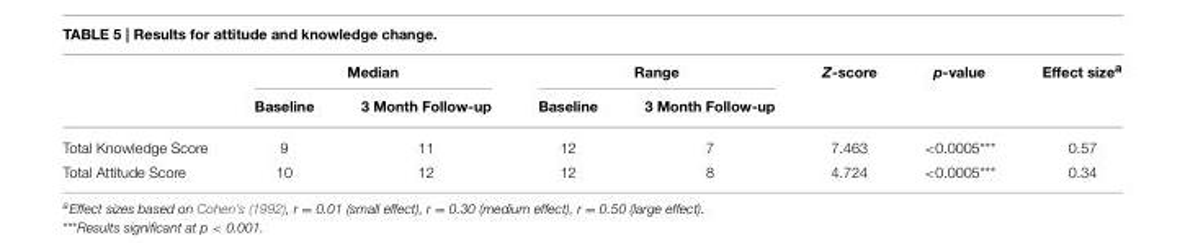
<table><thead><tr><td rowspan="2"></td><td colspan="2">Median</td><td colspan="2">Range</td><td rowspan="2">Z-score</td><td rowspan="2">p-value</td><td rowspan="2">Effect size<sup>a</sup></td></tr><tr><td>Baseline</td><td>3 Month Follow-up</td><td>Baseline</td><td>3 Month Follow-up</td></tr></thead><tbody><tr><td>Total Knowledge Score</td><td>9</td><td>11</td><td>12</td><td>7</td><td>7.463</td><td>&lt;0.0005***</td><td>0.57</td></tr><tr><td>Total Attitude Score</td><td>10</td><td>12</td><td>12</td><td>8</td><td>4.724</td><td>&lt;0.0005***</td><td>0.34</td></tr></tbody></table>